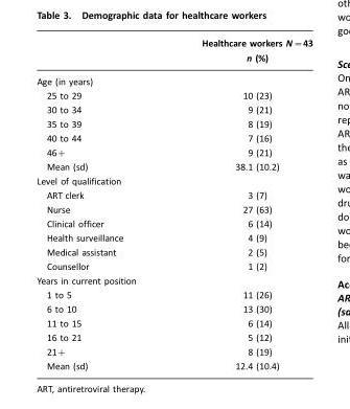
<table><thead><tr><td></td><td>Healthcare workers N=43 n (%)</td></tr></thead><tbody><tr><td colspan="2">Age (in years)</td></tr><tr><td>25 to 29</td><td>10 (23)</td></tr><tr><td>30 to 34</td><td>9 (21)</td></tr><tr><td>35 to 39</td><td>8 (19)</td></tr><tr><td>40 to 44</td><td>7 (16)</td></tr><tr><td>46+</td><td>9 (21)</td></tr><tr><td>Mean (sd)</td><td>38.1 (10.2)</td></tr><tr><td colspan="2">Level of qualification</td></tr><tr><td>ART clerk</td><td>3 (7)</td></tr><tr><td>Nurse</td><td>27 (63)</td></tr><tr><td>Clinical officer</td><td>6 (14)</td></tr><tr><td>Health surveillance</td><td>4 (9)</td></tr><tr><td>Medical assistant</td><td>2 (5)</td></tr><tr><td>Counsellor</td><td>1 (2)</td></tr><tr><td colspan="2">Years in current position</td></tr><tr><td>1 to 5</td><td>11 (26)</td></tr><tr><td>6 to 10</td><td>13 (30)</td></tr><tr><td>11 to 15</td><td>6 (14)</td></tr><tr><td>16 to 21</td><td>5 (12)</td></tr><tr><td>21+</td><td>8 (19)</td></tr><tr><td>Mean (sd)</td><td>12.4 (10.4)</td></tr></tbody></table>